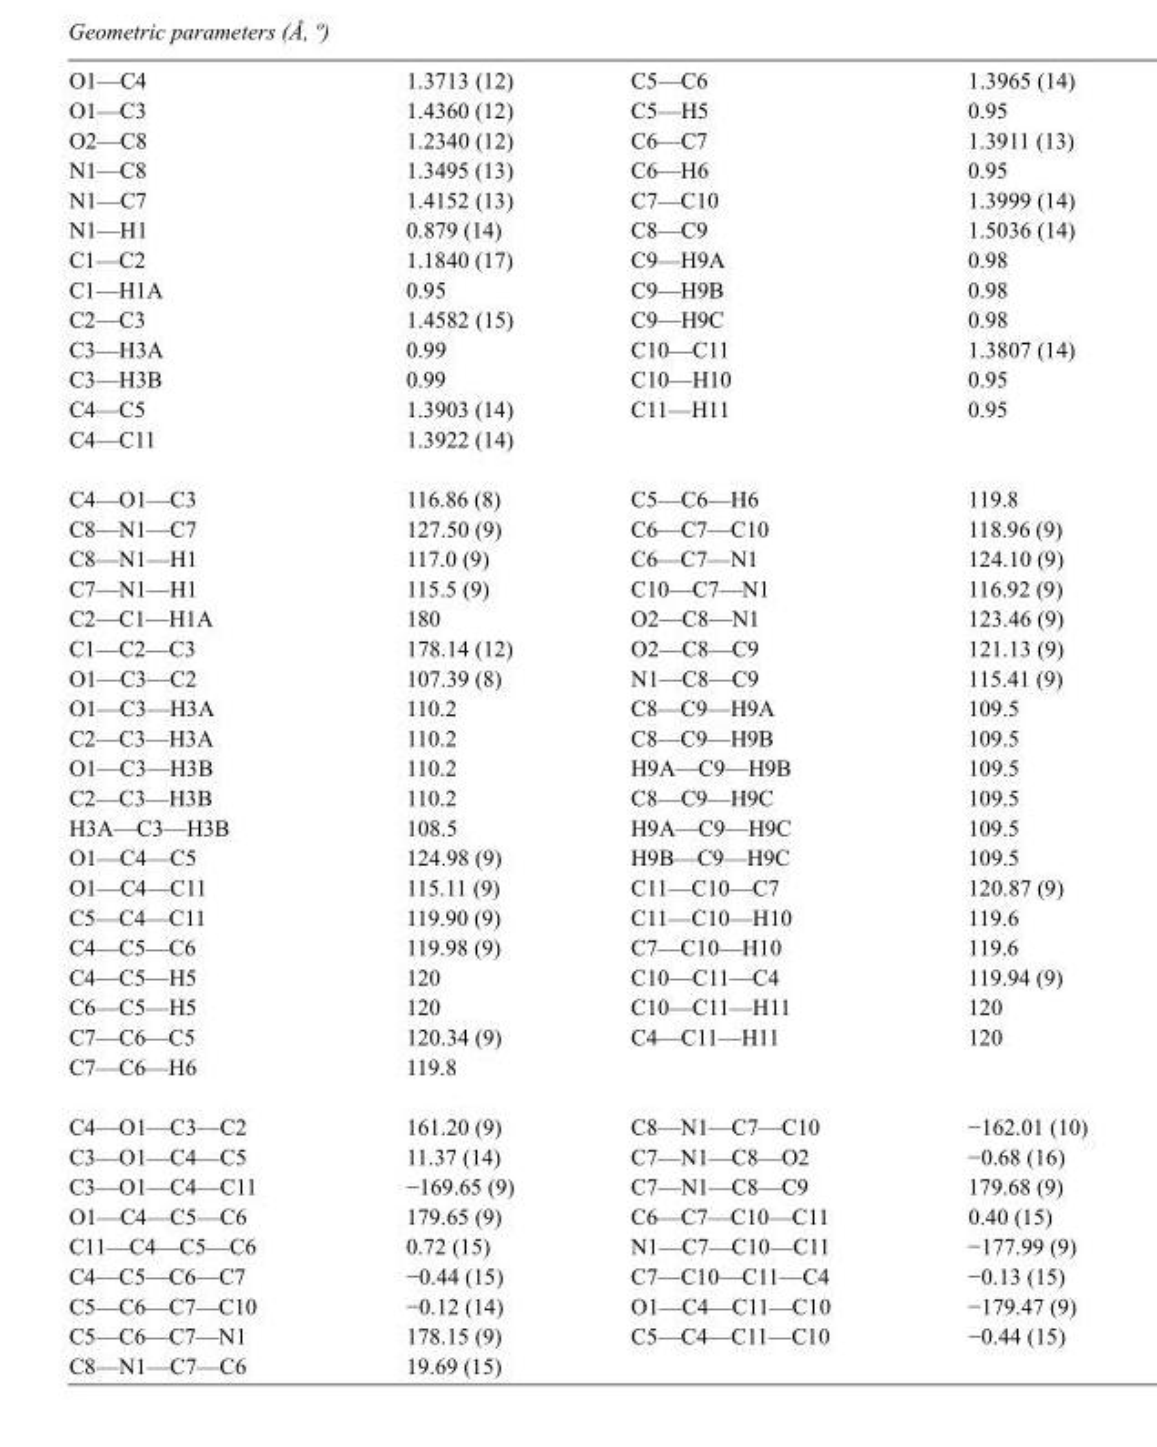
<table><tbody><tr><td>O1—C4</td><td>1.3713 (12)</td><td>C5—C6</td><td>1.3965 (14)</td></tr><tr><td>O1—C3</td><td>1.4360 (12)</td><td>C5—H5</td><td>0.95</td></tr><tr><td>O2—C8</td><td>1.2340 (12)</td><td>C6—C7</td><td>1.3911 (13)</td></tr><tr><td>N1—C8</td><td>1.3495 (13)</td><td>C6—H6</td><td>0.95</td></tr><tr><td>N1—C7</td><td>1.4152 (13)</td><td>C7—C10</td><td>1.3999 (14)</td></tr><tr><td>N1—H1</td><td>0.879 (14)</td><td>C8—C9</td><td>1.5036 (14)</td></tr><tr><td>C1—C2</td><td>1.1840 (17)</td><td>C9—H9A</td><td>0.98</td></tr><tr><td>C1—H1A</td><td>0.95</td><td>C9—H9B</td><td>0.98</td></tr><tr><td>C2—C3</td><td>1.4582 (15)</td><td>C9—H9C</td><td>0.98</td></tr><tr><td>C3—H3A</td><td>0.99</td><td>C10—C11</td><td>1.3807 (14)</td></tr><tr><td>C3—H3B</td><td>0.99</td><td>C10—H10</td><td>0.95</td></tr><tr><td>C4—C5</td><td>1.3903 (14)</td><td>C11—H11</td><td>0.95</td></tr><tr><td>C4—C11</td><td>1.3922 (14)</td><td></td><td></td></tr><tr><td>C4—O1—C3</td><td>116.86 (8)</td><td>C5—C6—H6</td><td>119.8</td></tr><tr><td>C8—N1—C7</td><td>127.50 (9)</td><td>C6—C7—C10</td><td>118.96 (9)</td></tr><tr><td>C8—N1—H1</td><td>117.0 (9)</td><td>C6—C7—N1</td><td>124.10 (9)</td></tr><tr><td>C7—N1—H1</td><td>115.5 (9)</td><td>C10—C7—N1</td><td>116.92 (9)</td></tr><tr><td>C2—C1—H1A</td><td>180</td><td>O2—C8—N1</td><td>123.46 (9)</td></tr><tr><td>C1—C2—C3</td><td>178.14 (12)</td><td>O2—C8—C9</td><td>121.13 (9)</td></tr><tr><td>O1—C3—C2</td><td>107.39 (8)</td><td>N1—C8—C9</td><td>115.41 (9)</td></tr><tr><td>O1—C3—H3A</td><td>110.2</td><td>C8—C9—H9A</td><td>109.5</td></tr><tr><td>C2—C3—H3A</td><td>110.2</td><td>C8—C9—H9B</td><td>109.5</td></tr><tr><td>O1—C3—H3B</td><td>110.2</td><td>H9A—C9—H9B</td><td>109.5</td></tr><tr><td>C2—C3—H3B</td><td>110.2</td><td>C8—C9—H9C</td><td>109.5</td></tr><tr><td>H3A—C3—H3B</td><td>108.5</td><td>H9A—C9—H9C</td><td>109.5</td></tr><tr><td>O1—C4—C5</td><td>124.98 (9)</td><td>H9B—C9—H9C</td><td>109.5</td></tr><tr><td>O1—C4—C11</td><td>115.11 (9)</td><td>C11—C10—C7</td><td>120.87 (9)</td></tr><tr><td>C5—C4—C11</td><td>119.90 (9)</td><td>C11—C10—H10</td><td>119.6</td></tr><tr><td>C4—C5—C6</td><td>119.98 (9)</td><td>C7—C10—H10</td><td>119.6</td></tr><tr><td>C4—C5—H5</td><td>120</td><td>C10—C11—C4</td><td>119.94 (9)</td></tr><tr><td>C6—C5—H5</td><td>120</td><td>C10—C11—H11</td><td>120</td></tr><tr><td>C7—C6—C5</td><td>120.34 (9)</td><td>C4—C11—H11</td><td>120</td></tr><tr><td>C7—C6—H6</td><td>119.8</td><td></td><td></td></tr><tr><td>C4—O1—C3—C2</td><td>161.20 (9)</td><td>C8—N1—C7—C10</td><td>−162.01 (10)</td></tr><tr><td>C3—O1—C4—C5</td><td>11.37 (14)</td><td>C7—N1—C8—O2</td><td>−0.68 (16)</td></tr><tr><td>C3—O1—C4—C11</td><td>−169.65 (9)</td><td>C7—N1—C8—C9</td><td>179.68 (9)</td></tr><tr><td>O1—C4—C5—C6</td><td>179.65 (9)</td><td>C6—C7—C10—C11</td><td>0.40 (15)</td></tr><tr><td>C11—C4—C5—C6</td><td>0.72 (15)</td><td>N1—C7—C10—C11</td><td>−177.99 (9)</td></tr><tr><td>C4—C5—C6—C7</td><td>−0.44 (15)</td><td>C7—C10—C11—C4</td><td>−0.13 (15)</td></tr><tr><td>C5—C6—C7—C10</td><td>−0.12 (14)</td><td>O1—C4—C11—C10</td><td>−179.47 (9)</td></tr><tr><td>C5—C6—C7—N1</td><td>178.15 (9)</td><td>C5—C4—C11—C10</td><td>−0.44 (15)</td></tr><tr><td>C8—N1—C7—C6</td><td>19.69 (15)</td><td></td><td></td></tr></tbody></table>